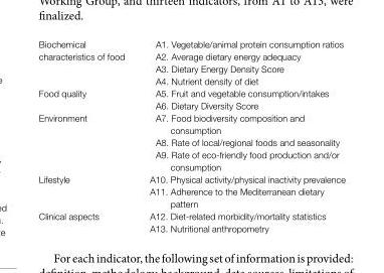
<table><tbody><tr><td rowspan="4">Biochemical characteristics of food</td><td>A1. Vegetable/animal protein consumption ratios</td></tr><tr><td>A2. Average dietary energy adequacy</td></tr><tr><td>A3. Dietary Energy Density Score</td></tr><tr><td>A4. Nutrient density of diet</td></tr><tr><td rowspan="2">Food quality</td><td>A5. Fruit and vegetable consumption/intakes</td></tr><tr><td>A6. Dietary Diversity Score</td></tr><tr><td rowspan="3">Environment</td><td>A7. Food biodiversity composition and consumption</td></tr><tr><td>A8. Rate of local/regional foods and seasonality</td></tr><tr><td>A9. Rate of eco-friendly food production and/or consumption</td></tr><tr><td rowspan="2">Lifestyle</td><td>A10. Physical activity/physical inactivity prevalence</td></tr><tr><td>A11. Adherence to the Mediterranean dietary pattern</td></tr><tr><td rowspan="2">Clinical aspects</td><td>A12. Diet-related morbidity/mortality statistics</td></tr><tr><td>A13. Nutritional anthropometry</td></tr></tbody></table>